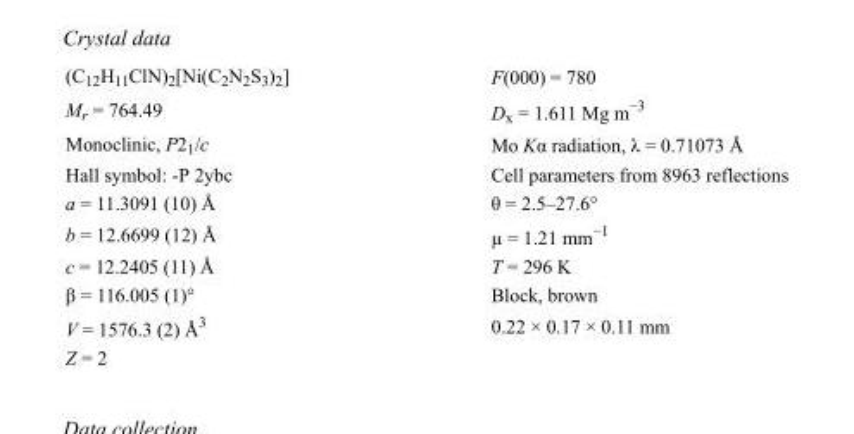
<table><tbody><tr><td>(C<sub>12</sub>H<sub>11</sub>ClN)<sub>2</sub>[Ni(C<sub>2</sub>N<sub>2</sub>S<sub>3</sub>)<sub>2</sub>]</td><td>F(000) = 780</td></tr><tr><td>M<sub>r</sub> = 764.49</td><td>D<sub>x</sub> = 1.611 Mg m<sup>−3</sup></td></tr><tr><td>Monoclinic, P2<sub>1</sub>/c</td><td>Mo Kα radiation, λ = 0.71073 Å</td></tr><tr><td>Hall symbol: -P 2ybc</td><td>Cell parameters from 8963 reflections</td></tr><tr><td>a = 11.3091 (10) Å</td><td>θ = 2.5–27.6°</td></tr><tr><td>b = 12.6699 (12) Å</td><td>µ = 1.21 mm<sup>−1</sup></td></tr><tr><td>c = 12.2405 (11) Å</td><td>T = 296 K</td></tr><tr><td>β = 116.005 (1)°</td><td>Block, brown</td></tr><tr><td>V = 1576.3 (2) Å<sup>3</sup></td><td>0.22 × 0.17 × 0.11 mm</td></tr><tr><td>Z = 2</td><td></td></tr></tbody></table>